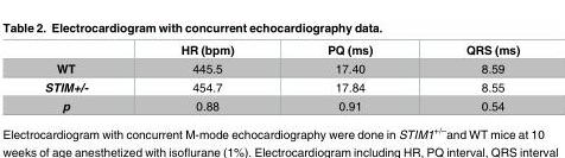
<table><thead><tr><td></td><td>HR (bpm)</td><td>PQ (ms)</td><td>QRS (ms)</td></tr></thead><tbody><tr><td>WT</td><td>445.5</td><td>17.40</td><td>8.59</td></tr><tr><td>STIM+/-</td><td>454.7</td><td>17.84</td><td>8.55</td></tr><tr><td>p</td><td>0.88</td><td>0.91</td><td>0.54</td></tr></tbody></table>